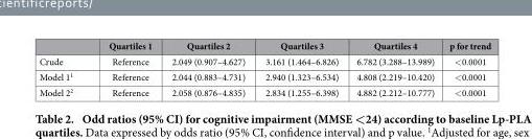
<table><thead><tr><td></td><td>Quartiles 1</td><td>Quartiles 2</td><td>Quartiles 3</td><td>Quartiles 4</td><td>p for trend</td></tr></thead><tbody><tr><td>Crude</td><td>Reference</td><td>2.049 (0.907–4.627)</td><td>3.161 (1.464–6.826)</td><td>6.782 (3.288–13.989)</td><td>&lt; 0.0001</td></tr><tr><td>Model 1<sup>1</sup></td><td>Reference</td><td>2.044 (0.883–4.731)</td><td>2.940 (1.323–6.534)</td><td>4.808 (2.219–10.420)</td><td>&lt; 0.0001</td></tr><tr><td>Model 2<sup>2</sup></td><td>Reference</td><td>2.058 (0.876–4.835)</td><td>2.834 (1.255–6.398)</td><td>4.882 (2.212–10.777)</td><td>&lt; 0.0001</td></tr></tbody></table>